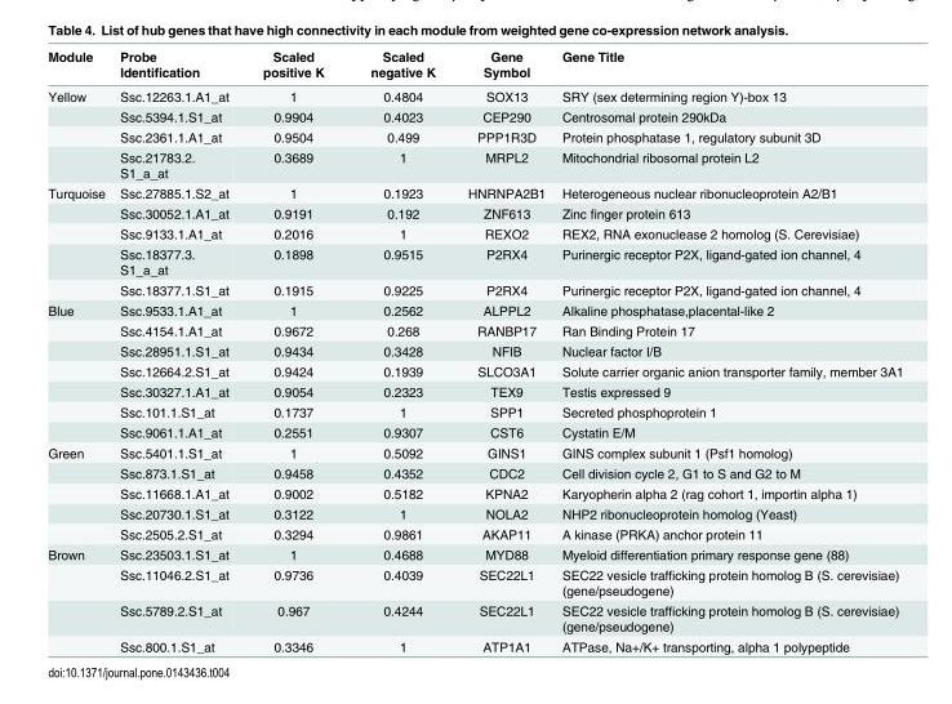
<table><thead><tr><td>Module</td><td>Probe Identification</td><td>Scaled positive K</td><td>Scaled negative K</td><td>Gene Symbol</td><td>Gene Title</td></tr></thead><tbody><tr><td rowspan="4">Yellow</td><td>Ssc.12263.1.A1_at</td><td>1</td><td>0.4804</td><td>SOX13</td><td>SRY (sex determining region Y)-box 13</td></tr><tr><td>Ssc.5394.1.S1_at</td><td>0.9904</td><td>0.4023</td><td>CEP290</td><td>Centrosomal protein 290kDa</td></tr><tr><td>Ssc.2361.1.A1_at</td><td>0.9504</td><td>0.499</td><td>PPP1R3D</td><td>Protein phosphatase 1, regulatory subunit 3D</td></tr><tr><td>Ssc.21783.2. S1_a_at</td><td>0.3689</td><td>1</td><td>MRPL2</td><td>Mitochondrial ribosomal protein L2</td></tr><tr><td rowspan="5">Turquoise</td><td>Ssc.27885.1.S2_at</td><td>1</td><td>0.1923</td><td>HNRNPA2B1</td><td>Heterogeneous nuclear ribonucleoprotein A2/B1</td></tr><tr><td>Ssc.30052.1.A1_at</td><td>0.9191</td><td>0.192</td><td>ZNF613</td><td>Zinc finger protein 613</td></tr><tr><td>Ssc.9133.1.A1_at</td><td>0.2016</td><td>1</td><td>REXO2</td><td>REX2, RNA exonuclease 2 homolog (S. Cerevisiae)</td></tr><tr><td>Ssc.18377.3. S1_a_at</td><td>0.1898</td><td>0.9515</td><td>P2RX4</td><td>Purinergic receptor P2X, ligand-gated ion channel, 4</td></tr><tr><td>Ssc.18377.1.S1_at</td><td>0.1915</td><td>0.9225</td><td>P2RX4</td><td>Purinergic receptor P2X, ligand-gated ion channel, 4</td></tr><tr><td rowspan="7">Blue</td><td>Ssc.9533.1.A1_at</td><td>1</td><td>0.2562</td><td>ALPPL2</td><td>Alkaline phosphatase,placental-like 2</td></tr><tr><td>Ssc.4154.1.A1_at</td><td>0.9672</td><td>0.268</td><td>RANBP17</td><td>Ran Binding Protein 17</td></tr><tr><td>Ssc.28951.1.S1_at</td><td>0.9434</td><td>0.3428</td><td>NFIB</td><td>Nuclear factor I/B</td></tr><tr><td>Ssc.12664.2.S1_at</td><td>0.9424</td><td>0.1939</td><td>SLCO3A1</td><td>Solute carrier organic anion transporter family, member 3A1</td></tr><tr><td>Ssc.30327.1.A1_at</td><td>0.9054</td><td>0.2323</td><td>TEX9</td><td>Testis expressed 9</td></tr><tr><td>Ssc.101.1.S1_at</td><td>0.1737</td><td>1</td><td>SPP1</td><td>Secreted phosphoprotein 1</td></tr><tr><td>Ssc.9061.1.A1_at</td><td>0.2551</td><td>0.9307</td><td>CST6</td><td>Cystatin E/M</td></tr><tr><td rowspan="5">Green</td><td>Ssc.5401.1.S1_at</td><td>1</td><td>0.5092</td><td>GINS1</td><td>GINS complex subunit 1 (Psf1 homolog)</td></tr><tr><td>Ssc.873.1.S1_at</td><td>0.9458</td><td>0.4352</td><td>CDC2</td><td>Cell division cycle 2, G1 to S and G2 to M</td></tr><tr><td>Ssc.11668.1.A1_at</td><td>0.9002</td><td>0.5182</td><td>KPNA2</td><td>Karyopherin alpha 2 (rag cohort 1, importin alpha 1)</td></tr><tr><td>Ssc.20730.1.S1_at</td><td>0.3122</td><td>1</td><td>NOLA2</td><td>NHP2 ribonucleoprotein homolog (Yeast)</td></tr><tr><td>Ssc.2505.2.S1_at</td><td>0.3294</td><td>0.9861</td><td>AKAP11</td><td>A kinase (PRKA) anchor protein 11</td></tr><tr><td rowspan="4">Brown</td><td>Ssc.23503.1.S1_at</td><td>1</td><td>0.4688</td><td>MYD88</td><td>Myeloid differentiation primary response gene (88)</td></tr><tr><td>Ssc.11046.2.S1_at</td><td>0.9736</td><td>0.4039</td><td>SEC22L1</td><td>SEC22 vesicle trafficking protein homolog B (S. cerevisiae) (gene/pseudogene)</td></tr><tr><td>Ssc.5789.2.S1_at</td><td>0.967</td><td>0.4244</td><td>SEC22L1</td><td>SEC22 vesicle trafficking protein homolog B (S. cerevisiae) (gene/pseudogene)</td></tr><tr><td>Ssc.800.1.S1_at</td><td>0.3346</td><td>1</td><td>ATP1A1</td><td>ATPase, Na+/K+ transporting, alpha 1 polypeptide</td></tr></tbody></table>